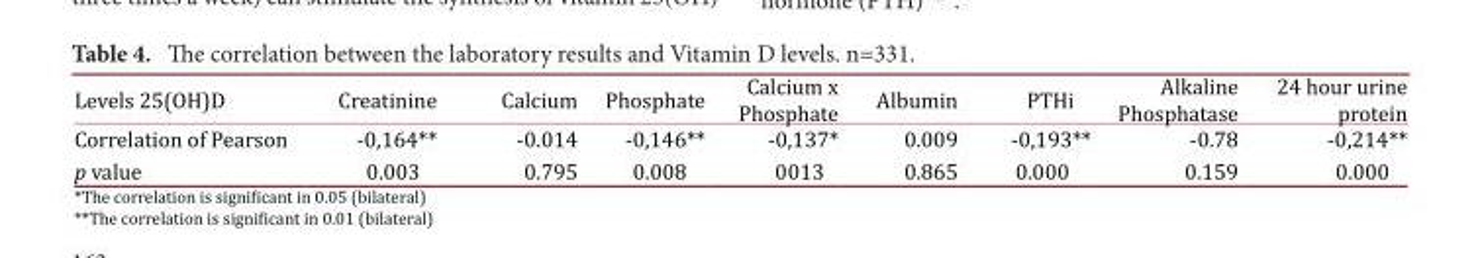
<table><thead><tr><td>Levels 25(OH)D</td><td>Creatinine</td><td>Calcium</td><td>Phosphate</td><td>Calcium x Phosphate</td><td>Albumin</td><td>PTHi</td><td>Alkaline Phosphatase</td><td>24 hour urine protein</td></tr></thead><tbody><tr><td>Correlation of Pearson</td><td>-0,164**</td><td>-0.014</td><td>-0,146**</td><td>-0,137*</td><td>0.009</td><td>-0,193**</td><td>-0.78</td><td>-0,214**</td></tr><tr><td>p value</td><td>0.003</td><td>0.795</td><td>0.008</td><td>0013</td><td>0.865</td><td>0.000</td><td>0.159</td><td>0.000</td></tr></tbody></table>